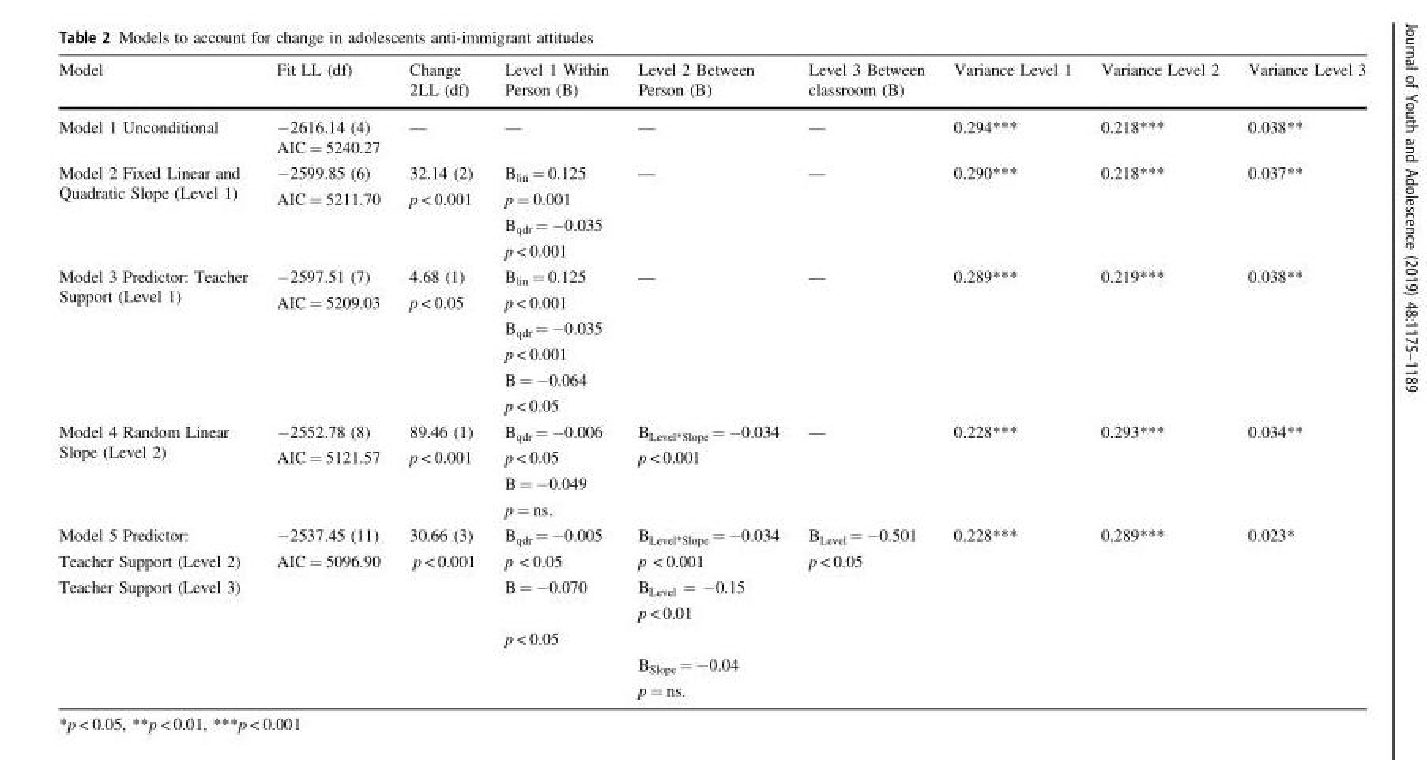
<table><thead><tr><td>Model</td><td>Fit LL (df)</td><td>Change 2LL (df)</td><td>Level 1 Within Person (B)</td><td>Level 2 Between Person (B)</td><td>Level 3 Between classroom (B)</td><td>Variance Level 1</td><td>Variance Level 2</td><td>Variance Level 3</td></tr></thead><tbody><tr><td>Model 1 Unconditional</td><td>−2616.14 (4) AIC = 5240.27</td><td>—</td><td>—</td><td>—</td><td>—</td><td>0.294***</td><td>0.218***</td><td>0.038**</td></tr><tr><td rowspan="4">Model 2 Fixed Linear and Quadratic Slope (Level 1)</td><td>−2599.85 (6)</td><td>32.14 (2)</td><td>B<sub>lin</sub> = 0.125</td><td rowspan="4">—</td><td rowspan="4">—</td><td rowspan="4">0.290***</td><td rowspan="4">0.218***</td><td rowspan="4">0.037**</td></tr><tr><td rowspan="3">AIC = 5211.70</td><td rowspan="3">p &lt; 0.001</td><td>p = 0.001</td></tr><tr><td>B<sub>qdr</sub> = −0.035</td></tr><tr><td>p &lt; 0.001</td></tr><tr><td rowspan="6">Model 3 Predictor: Teacher Support (Level 1)</td><td>−2597.51 (7)</td><td>4.68 (1)</td><td>B<sub>lin</sub> = 0.125</td><td rowspan="6">—</td><td rowspan="6">—</td><td rowspan="6">0.289***</td><td rowspan="6">0.219***</td><td rowspan="6">0.038**</td></tr><tr><td rowspan="5">AIC = 5209.03</td><td rowspan="5">p &lt; 0.05</td><td>p &lt; 0.001</td></tr><tr><td>B<sub>qdr</sub> = −0.035</td></tr><tr><td>p &lt; 0.001</td></tr><tr><td>B = −0.064</td></tr><tr><td>p &lt; 0.05</td></tr><tr><td rowspan="4">Model 4 Random Linear Slope (Level 2)</td><td>−2552.78 (8)</td><td>89.46 (1)</td><td>B<sub>qdr</sub> = −0.006</td><td>B<sub>Level*Slope</sub> = −0.034</td><td rowspan="4">—</td><td rowspan="4">0.228***</td><td rowspan="4">0.293***</td><td rowspan="4">0.034**</td></tr><tr><td rowspan="3">AIC = 5121.57</td><td rowspan="3">p &lt; 0.001</td><td>p &lt; 0.05</td><td rowspan="3">p &lt; 0.001</td></tr><tr><td>B = −0.049</td></tr><tr><td>p = ns.</td></tr><tr><td>Model 5 Predictor:</td><td>−2537.45 (11)</td><td>30.66 (3)</td><td>B<sub>qdr</sub> = −0.005</td><td>B<sub>Level*Slope</sub> = −0.034</td><td>B<sub>Level</sub> = −0.501</td><td rowspan="7">0.228***</td><td rowspan="7">0.289***</td><td rowspan="7">0.023*</td></tr><tr><td>Teacher Support (Level 2)</td><td>AIC = 5096.90</td><td>p &lt; 0.001</td><td>p &lt; 0.05</td><td>p &lt; 0.001</td><td>p &lt; 0.05</td></tr><tr><td rowspan="5">Teacher Support (Level 3)</td><td rowspan="2"></td><td rowspan="2"></td><td rowspan="2">B = −0.070</td><td>B<sub>Level</sub> = −0.15</td><td></td></tr><tr><td>p &lt; 0.01</td><td></td></tr><tr><td></td><td></td><td>p &lt; 0.05</td><td></td><td></td></tr><tr><td></td><td></td><td></td><td>B<sub>Slope</sub> = −0.04</td><td></td></tr><tr><td></td><td></td><td></td><td>p = ns.</td><td></td></tr></tbody></table>